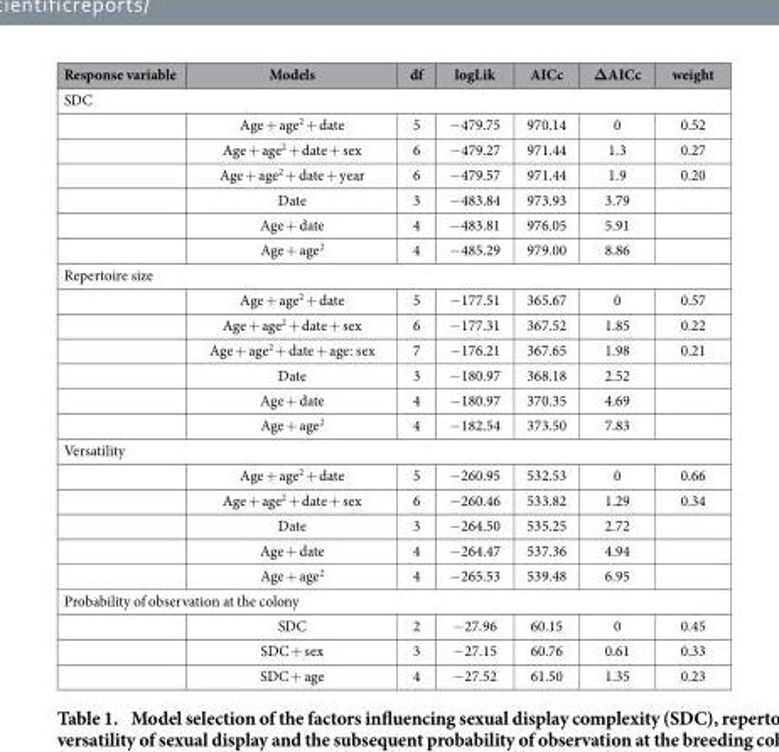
<table><thead><tr><td>Response variable</td><td>Models</td><td>df</td><td>logLik</td><td>AICc</td><td>ΔAICc</td><td>weight</td></tr></thead><tbody><tr><td colspan="7">SDC</td></tr><tr><td></td><td>Age + age<sup>2</sup> + date</td><td>5</td><td>− 479.75</td><td>970.14</td><td>0</td><td>0.52</td></tr><tr><td></td><td>Age + age<sup>2</sup> + date + sex</td><td>6</td><td>− 479.27</td><td>971.44</td><td>1.3</td><td>0.27</td></tr><tr><td></td><td>Age + age<sup>2</sup> + date + year</td><td>6</td><td>− 479.57</td><td>971.44</td><td>1.9</td><td>0.20</td></tr><tr><td></td><td>Date</td><td>3</td><td>− 483.84</td><td>973.93</td><td>3.79</td><td></td></tr><tr><td></td><td>Age + date</td><td>4</td><td>− 483.81</td><td>976.05</td><td>5.91</td><td></td></tr><tr><td></td><td>Age + age<sup>2</sup></td><td>4</td><td>− 485.29</td><td>979.00</td><td>8.86</td><td></td></tr><tr><td colspan="7">Repertoire size</td></tr><tr><td></td><td>Age + age<sup>2</sup> + date</td><td>5</td><td>− 177.51</td><td>365.67</td><td>0</td><td>0.57</td></tr><tr><td></td><td>Age + age<sup>2</sup> + date + sex</td><td>6</td><td>− 177.31</td><td>367.52</td><td>1.85</td><td>0.22</td></tr><tr><td></td><td>Age + age<sup>2</sup> + date + age: sex</td><td>7</td><td>− 176.21</td><td>367.65</td><td>1.98</td><td>0.21</td></tr><tr><td></td><td>Date</td><td>3</td><td>− 180.97</td><td>368.18</td><td>2.52</td><td></td></tr><tr><td></td><td>Age + date</td><td>4</td><td>− 180.97</td><td>370.35</td><td>4.69</td><td></td></tr><tr><td></td><td>Age + age<sup>2</sup></td><td>4</td><td>− 182.54</td><td>373.50</td><td>7.83</td><td></td></tr><tr><td colspan="7">Versatility</td></tr><tr><td></td><td>Age + age<sup>2</sup> + date</td><td>5</td><td>− 260.95</td><td>532.53</td><td>0</td><td>0.66</td></tr><tr><td></td><td>Age + age<sup>2</sup> + date + sex</td><td>6</td><td>− 260.46</td><td>533.82</td><td>1.29</td><td>0.34</td></tr><tr><td></td><td>Date</td><td>3</td><td>− 264.50</td><td>535.25</td><td>2.72</td><td></td></tr><tr><td></td><td>Age + date</td><td>4</td><td>− 264.47</td><td>537.36</td><td>4.94</td><td></td></tr><tr><td></td><td>Age + age<sup>2</sup></td><td>4</td><td>− 265.53</td><td>539.48</td><td>6.95</td><td></td></tr><tr><td colspan="7">Probability of observation at the colony</td></tr><tr><td></td><td>SDC</td><td>2</td><td>− 27.96</td><td>60.15</td><td>0</td><td>0.45</td></tr><tr><td></td><td>SDC + sex</td><td>3</td><td>− 27.15</td><td>60.76</td><td>0.61</td><td>0.33</td></tr><tr><td></td><td>SDC + age</td><td>4</td><td>− 27.52</td><td>61.50</td><td>1.35</td><td>0.23</td></tr></tbody></table>